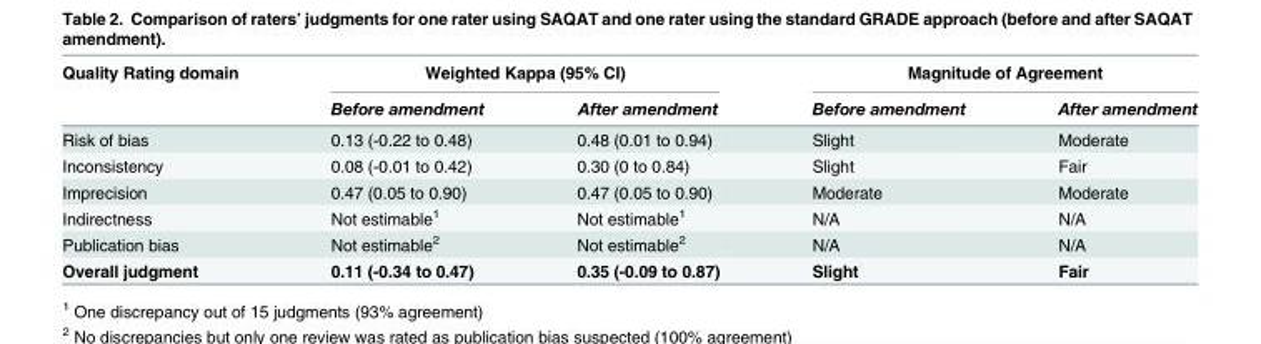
<table><thead><tr><td rowspan="2">Quality Rating domain</td><td colspan="2">Weighted Kappa (95% CI)</td><td colspan="2">Magnitude of Agreement</td></tr><tr><td>Before amendment</td><td>After amendment</td><td>Before amendment</td><td>After amendment</td></tr></thead><tbody><tr><td>Risk of bias</td><td>0.13 (-0.22 to 0.48)</td><td>0.48 (0.01 to 0.94)</td><td>Slight</td><td>Moderate</td></tr><tr><td>Inconsistency</td><td>0.08 (-0.01 to 0.42)</td><td>0.30 (0 to 0.84)</td><td>Slight</td><td>Fair</td></tr><tr><td>Imprecision</td><td>0.47 (0.05 to 0.90)</td><td>0.47 (0.05 to 0.90)</td><td>Moderate</td><td>Moderate</td></tr><tr><td>Indirectness</td><td>Not estimable<sup>1</sup></td><td>Not estimable<sup>1</sup></td><td>N/A</td><td>N/A</td></tr><tr><td>Publication bias</td><td>Not estimable<sup>2</sup></td><td>Not estimable<sup>2</sup></td><td>N/A</td><td>N/A</td></tr><tr><td>Overall judgment</td><td>0.11 (-0.34 to 0.47)</td><td>0.35 (-0.09 to 0.87)</td><td>Slight</td><td>Fair</td></tr></tbody></table>